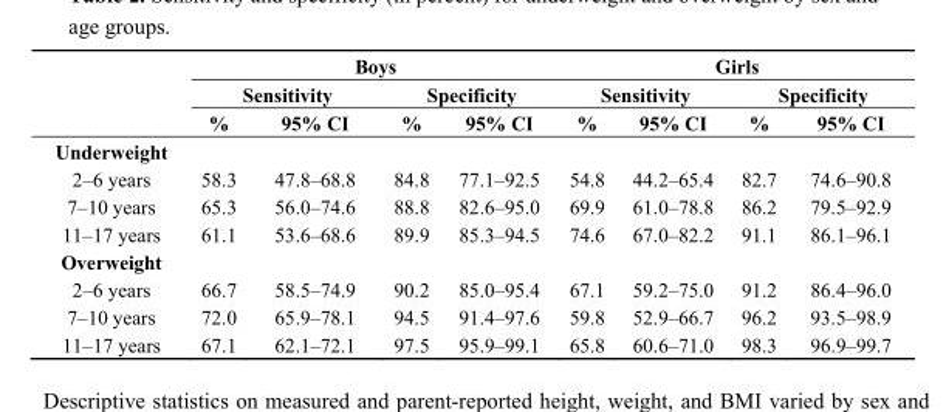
<table><thead><tr><td rowspan="3"></td><td colspan="4">Boys</td><td colspan="4">Girls</td></tr><tr><td colspan="2">Sensitivity</td><td colspan="2">Specificity</td><td colspan="2">Sensitivity</td><td colspan="2">Specificity</td></tr><tr><td>%</td><td>95% CI</td><td>%</td><td>95% CI</td><td>%</td><td>95% CI</td><td>%</td><td>95% CI</td></tr></thead><tbody><tr><td colspan="9">Underweight</td></tr><tr><td>2–6 years</td><td>58.3</td><td>47.8–68.8</td><td>84.8</td><td>77.1–92.5</td><td>54.8</td><td>44.2–65.4</td><td>82.7</td><td>74.6–90.8</td></tr><tr><td>7–10 years</td><td>65.3</td><td>56.0–74.6</td><td>88.8</td><td>82.6–95.0</td><td>69.9</td><td>61.0–78.8</td><td>86.2</td><td>79.5–92.9</td></tr><tr><td>11–17 years</td><td>61.1</td><td>53.6–68.6</td><td>89.9</td><td>85.3–94.5</td><td>74.6</td><td>67.0–82.2</td><td>91.1</td><td>86.1–96.1</td></tr><tr><td colspan="9">Overweight</td></tr><tr><td>2–6 years</td><td>66.7</td><td>58.5–74.9</td><td>90.2</td><td>85.0–95.4</td><td>67.1</td><td>59.2–75.0</td><td>91.2</td><td>86.4–96.0</td></tr><tr><td>7–10 years</td><td>72.0</td><td>65.9–78.1</td><td>94.5</td><td>91.4–97.6</td><td>59.8</td><td>52.9–66.7</td><td>96.2</td><td>93.5–98.9</td></tr><tr><td>11–17 years</td><td>67.1</td><td>62.1–72.1</td><td>97.5</td><td>95.9–99.1</td><td>65.8</td><td>60.6–71.0</td><td>98.3</td><td>96.9–99.7</td></tr></tbody></table>